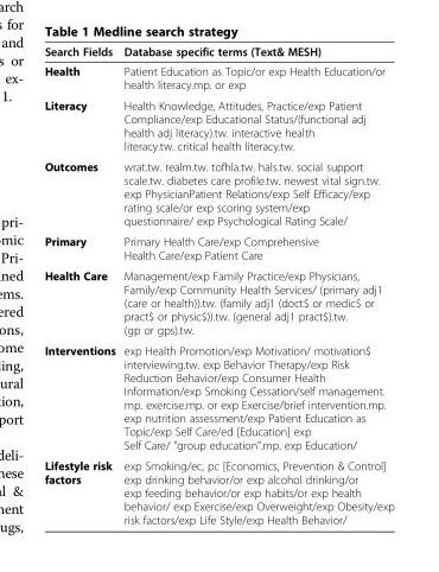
<table><thead><tr><td>Search Fields</td><td>Database specific terms (Text&amp; MESH)</td></tr></thead><tbody><tr><td>Health</td><td>Patient Education as Topic/or exp Health Education/or health literacy.mp. or exp</td></tr><tr><td>Literacy</td><td>Health Knowledge, Attitudes, Practice/exp Patient Compliance/exp Educational Status/(functional adj health adj literacy).tw. interactive health literacy.tw. critical health literacy.tw.</td></tr><tr><td>Outcomes</td><td>wrat.tw. realm.tw. tofhla.tw. hals.tw. social support scale.tw. diabetes care profile.tw. newest vital sign.tw. exp PhysicianPatient Relations/exp Self Efficacy/exp rating scale/or exp scoring system/exp questionnaire/ exp Psychological Rating Scale/</td></tr><tr><td>Primary</td><td>Primary Health Care/exp Comprehensive Health Care/exp Patient Care</td></tr><tr><td>Health Care</td><td>Management/exp Family Practice/exp Physicians, Family/exp Community Health Services/ (primary adj1 (care or health)).tw. (family adj1 (doct$ or medic$ or pract$ or physic$)).tw. (general adj1 pract$).tw. (gp or gps).tw.</td></tr><tr><td>Interventions</td><td>exp Health Promotion/exp Motivation/ motivation$ interviewing.tw. exp Behavior Therapy/exp Risk Reduction Behavior/exp Consumer Health Information/exp Smoking Cessation/self management. mp. exercise.mp. or exp Exercise/brief intervention.mp. exp nutrition assessment/exp Patient Education as Topic/exp Self Care/ed [Education] exp Self Care/ &quot;group education&quot;.mp. exp Education/</td></tr><tr><td>Lifestyle risk factors</td><td>exp Smoking/ec, pc [Economics, Prevention &amp; Control] exp drinking behavior/or exp alcohol drinking/or exp feeding behavior/or exp habits/or exp health behavior/ exp Exercise/exp Overweight/exp Obesity/exp risk factors/exp Life Style/exp Health Behavior/</td></tr></tbody></table>